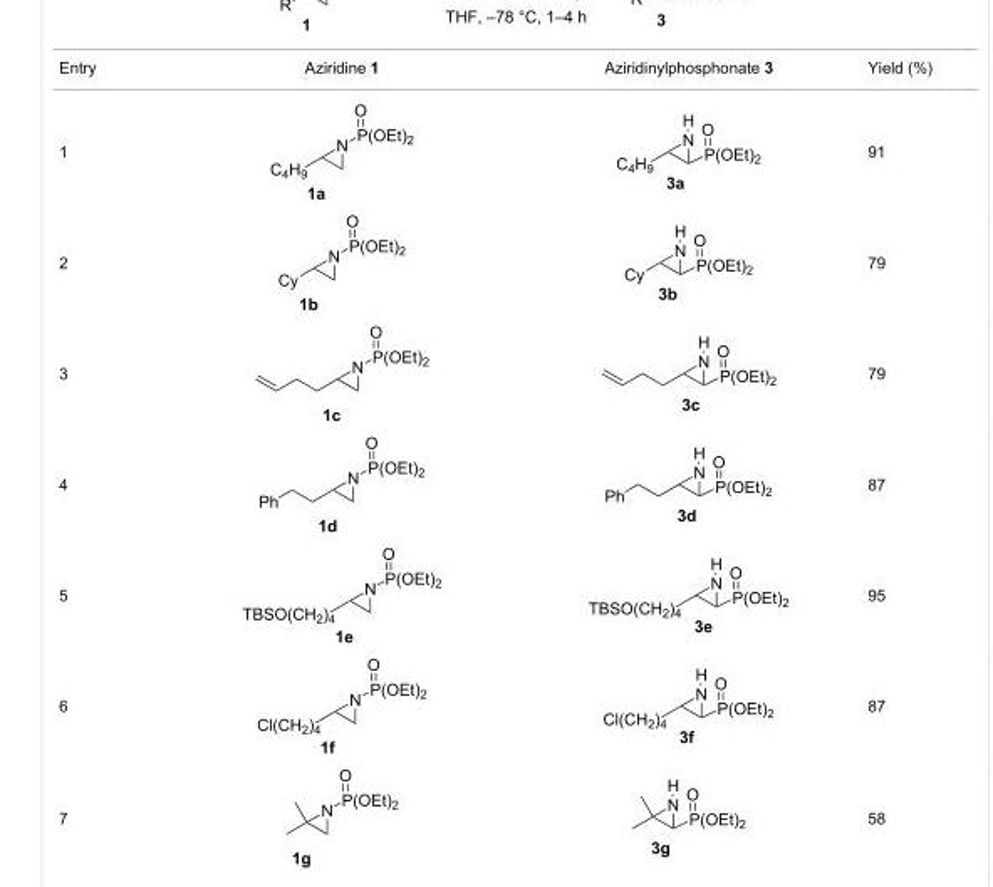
<table><tbody><tr><td>Entry</td><td>Aziridine 1</td><td>Aziridinylphosphonate 3</td><td>Yield (%)</td></tr><tr><td>1</td><td></td><td></td><td>91</td></tr><tr><td>2</td><td></td><td></td><td>79</td></tr><tr><td>3</td><td></td><td></td><td>79</td></tr><tr><td>4</td><td></td><td></td><td>87</td></tr><tr><td>5</td><td></td><td></td><td>95</td></tr><tr><td>6</td><td></td><td></td><td>87</td></tr><tr><td>7</td><td></td><td></td><td>58</td></tr></tbody></table>